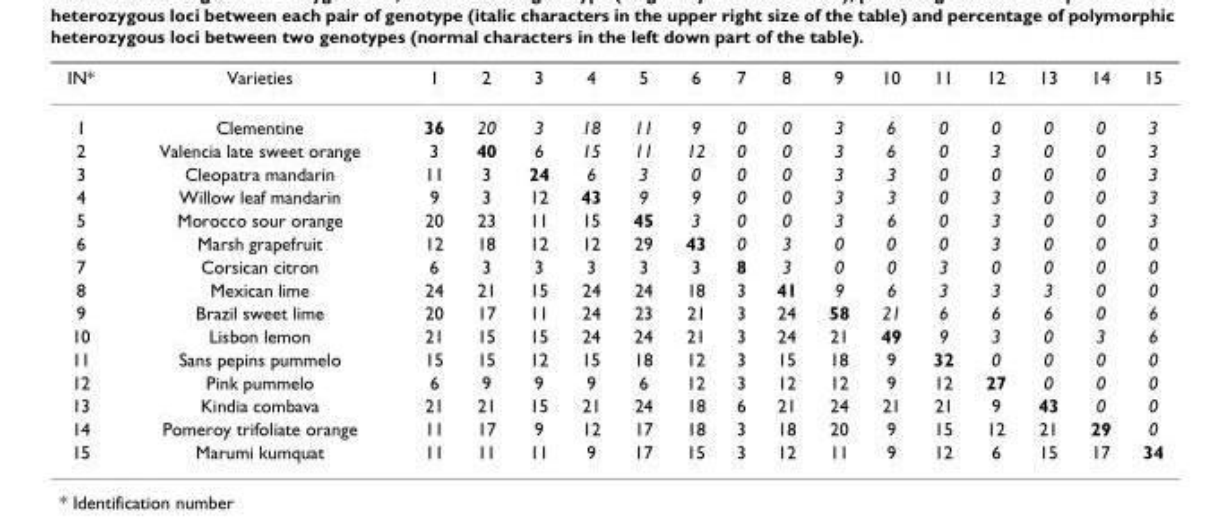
<table><thead><tr><td>IN*</td><td>Varieties</td><td>1</td><td>2</td><td>3</td><td>4</td><td>5</td><td>6</td><td>7</td><td>8</td><td>9</td><td>10</td><td>11</td><td>12</td><td>13</td><td>14</td><td>15</td></tr></thead><tbody><tr><td>1</td><td>Clementine</td><td>36</td><td>20</td><td>3</td><td>18</td><td>11</td><td>9</td><td>0</td><td>0</td><td>3</td><td>6</td><td>0</td><td>0</td><td>0</td><td>0</td><td>3</td></tr><tr><td>2</td><td>Valencia late sweet orange</td><td>3</td><td>40</td><td>6</td><td>15</td><td>11</td><td>12</td><td>0</td><td>0</td><td>3</td><td>6</td><td>0</td><td>3</td><td>0</td><td>0</td><td>3</td></tr><tr><td>3</td><td>Cleopatra mandarin</td><td>11</td><td>3</td><td>24</td><td>6</td><td>3</td><td>0</td><td>0</td><td>0</td><td>3</td><td>3</td><td>0</td><td>0</td><td>0</td><td>0</td><td>3</td></tr><tr><td>4</td><td>Willow leaf mandarin</td><td>9</td><td>3</td><td>12</td><td>43</td><td>9</td><td>9</td><td>0</td><td>0</td><td>3</td><td>3</td><td>0</td><td>3</td><td>0</td><td>0</td><td>3</td></tr><tr><td>5</td><td>Morocco sour orange</td><td>20</td><td>23</td><td>11</td><td>15</td><td>45</td><td>3</td><td>0</td><td>0</td><td>3</td><td>6</td><td>0</td><td>3</td><td>0</td><td>0</td><td>3</td></tr><tr><td>6</td><td>Marsh grapefruit</td><td>12</td><td>18</td><td>12</td><td>12</td><td>29</td><td>43</td><td>0</td><td>3</td><td>0</td><td>0</td><td>0</td><td>3</td><td>0</td><td>0</td><td>0</td></tr><tr><td>7</td><td>Corsican citron</td><td>6</td><td>3</td><td>3</td><td>3</td><td>3</td><td>3</td><td>8</td><td>3</td><td>0</td><td>0</td><td>3</td><td>0</td><td>0</td><td>0</td><td>0</td></tr><tr><td>8</td><td>Mexican lime</td><td>24</td><td>21</td><td>15</td><td>24</td><td>24</td><td>18</td><td>3</td><td>41</td><td>9</td><td>6</td><td>3</td><td>3</td><td>3</td><td>0</td><td>0</td></tr><tr><td>9</td><td>Brazil sweet lime</td><td>20</td><td>17</td><td>11</td><td>24</td><td>23</td><td>21</td><td>3</td><td>24</td><td>58</td><td>21</td><td>6</td><td>6</td><td>6</td><td>0</td><td>6</td></tr><tr><td>10</td><td>Lisbon lemon</td><td>21</td><td>15</td><td>15</td><td>24</td><td>24</td><td>21</td><td>3</td><td>24</td><td>21</td><td>49</td><td>9</td><td>3</td><td>0</td><td>3</td><td>6</td></tr><tr><td>11</td><td>Sans pepins pummelo</td><td>15</td><td>15</td><td>12</td><td>15</td><td>18</td><td>12</td><td>3</td><td>15</td><td>18</td><td>9</td><td>32</td><td>0</td><td>0</td><td>0</td><td>0</td></tr><tr><td>12</td><td>Pink pummelo</td><td>6</td><td>9</td><td>9</td><td>9</td><td>6</td><td>12</td><td>3</td><td>12</td><td>12</td><td>9</td><td>12</td><td>27</td><td>0</td><td>0</td><td>0</td></tr><tr><td>13</td><td>Kindia combava</td><td>21</td><td>21</td><td>15</td><td>21</td><td>24</td><td>18</td><td>6</td><td>21</td><td>24</td><td>21</td><td>21</td><td>9</td><td>43</td><td>0</td><td>0</td></tr><tr><td>14</td><td>Pomeroy trifoliate orange</td><td>11</td><td>17</td><td>9</td><td>12</td><td>17</td><td>18</td><td>3</td><td>18</td><td>20</td><td>9</td><td>15</td><td>12</td><td>21</td><td>29</td><td>0</td></tr><tr><td>15</td><td>Marumi kumquat</td><td>11</td><td>11</td><td>11</td><td>9</td><td>17</td><td>15</td><td>3</td><td>12</td><td>11</td><td>9</td><td>12</td><td>6</td><td>15</td><td>17</td><td>34</td></tr></tbody></table>